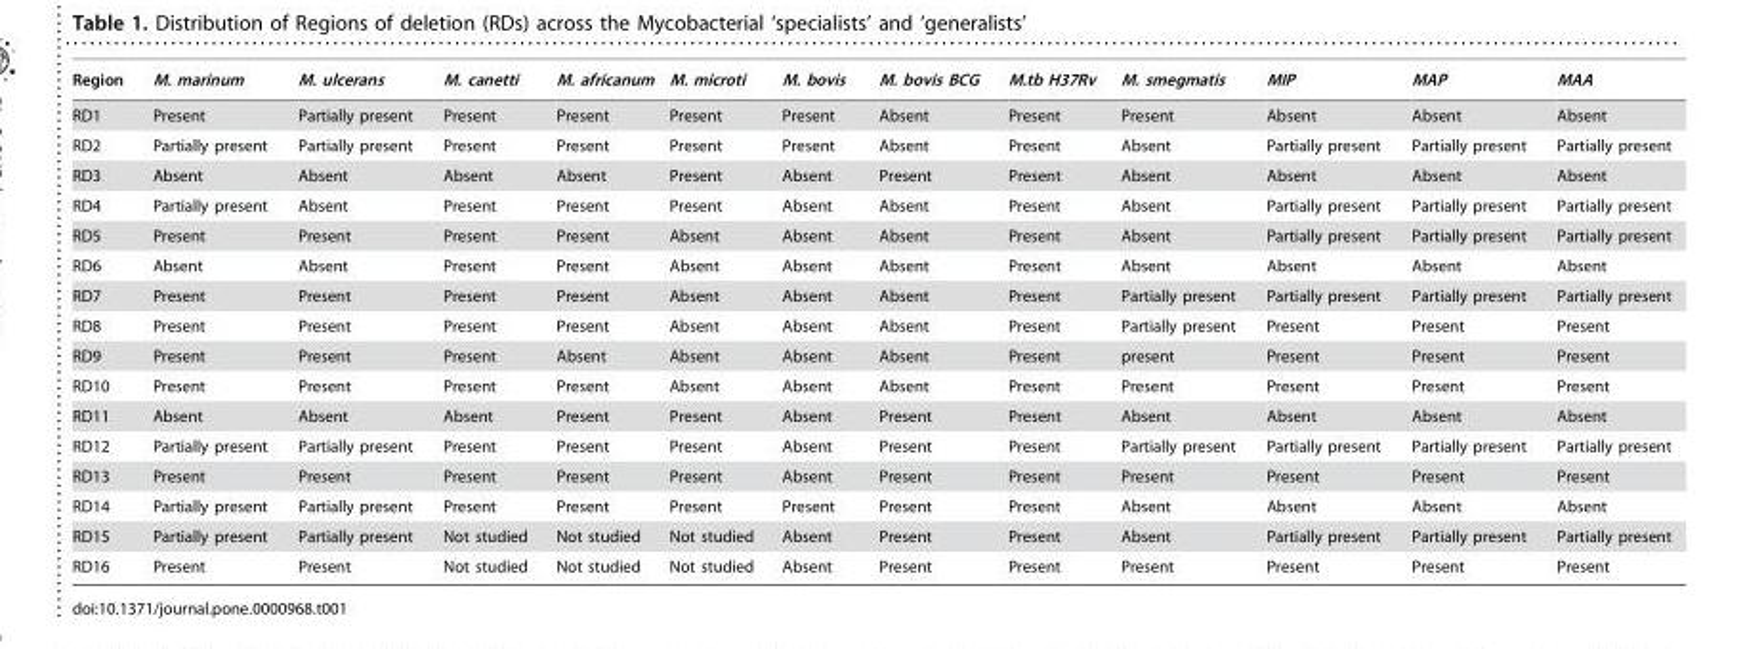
<table><thead><tr><td>Region</td><td>M. marinum</td><td>M. ulcerans</td><td>M. canetti</td><td>M. africanum</td><td>M. microti</td><td>M. bovis</td><td>M. bovis BCG</td><td>M.tb H37Rv</td><td>M. smegmatis</td><td>MIP</td><td>MAP</td><td>MAA</td></tr></thead><tbody><tr><td>RD1</td><td>Present</td><td>Partially present</td><td>Present</td><td>Present</td><td>Present</td><td>Present</td><td>Absent</td><td>Present</td><td>Present</td><td>Absent</td><td>Absent</td><td>Absent</td></tr><tr><td>RD2</td><td>Partially present</td><td>Partially present</td><td>Present</td><td>Present</td><td>Present</td><td>Present</td><td>Absent</td><td>Present</td><td>Absent</td><td>Partially present</td><td>Partially present</td><td>Partially present</td></tr><tr><td>RD3</td><td>Absent</td><td>Absent</td><td>Absent</td><td>Absent</td><td>Present</td><td>Absent</td><td>Present</td><td>Present</td><td>Absent</td><td>Absent</td><td>Absent</td><td>Absent</td></tr><tr><td>RD4</td><td>Partially present</td><td>Absent</td><td>Present</td><td>Present</td><td>Present</td><td>Absent</td><td>Absent</td><td>Present</td><td>Absent</td><td>Partially present</td><td>Partially present</td><td>Partially present</td></tr><tr><td>RD5</td><td>Present</td><td>Present</td><td>Present</td><td>Present</td><td>Absent</td><td>Absent</td><td>Absent</td><td>Present</td><td>Absent</td><td>Partially present</td><td>Partially present</td><td>Partially present</td></tr><tr><td>RD6</td><td>Absent</td><td>Absent</td><td>Present</td><td>Present</td><td>Absent</td><td>Absent</td><td>Absent</td><td>Present</td><td>Absent</td><td>Absent</td><td>Absent</td><td>Absent</td></tr><tr><td>RD7</td><td>Present</td><td>Present</td><td>Present</td><td>Present</td><td>Absent</td><td>Absent</td><td>Absent</td><td>Present</td><td>Partially present</td><td>Partially present</td><td>Partially present</td><td>Partially present</td></tr><tr><td>RD8</td><td>Present</td><td>Present</td><td>Present</td><td>Present</td><td>Absent</td><td>Absent</td><td>Absent</td><td>Present</td><td>Partially present</td><td>Present</td><td>Present</td><td>Present</td></tr><tr><td>RD9</td><td>Present</td><td>Present</td><td>Present</td><td>Absent</td><td>Absent</td><td>Absent</td><td>Absent</td><td>Present</td><td>present</td><td>Present</td><td>Present</td><td>Present</td></tr><tr><td>RD10</td><td>Present</td><td>Present</td><td>Present</td><td>Present</td><td>Absent</td><td>Absent</td><td>Absent</td><td>Present</td><td>Present</td><td>Present</td><td>Present</td><td>Present</td></tr><tr><td>RD11</td><td>Absent</td><td>Absent</td><td>Absent</td><td>Present</td><td>Present</td><td>Absent</td><td>Present</td><td>Present</td><td>Absent</td><td>Absent</td><td>Absent</td><td>Absent</td></tr><tr><td>RD12</td><td>Partially present</td><td>Partially present</td><td>Present</td><td>Present</td><td>Present</td><td>Absent</td><td>Present</td><td>Present</td><td>Partially present</td><td>Partially present</td><td>Partially present</td><td>Partially present</td></tr><tr><td>RD13</td><td>Present</td><td>Present</td><td>Present</td><td>Present</td><td>Present</td><td>Absent</td><td>Present</td><td>Present</td><td>Present</td><td>Present</td><td>Present</td><td>Present</td></tr><tr><td>RD14</td><td>Partially present</td><td>Partially present</td><td>Present</td><td>Present</td><td>Present</td><td>Present</td><td>Present</td><td>Present</td><td>Absent</td><td>Absent</td><td>Absent</td><td>Absent</td></tr><tr><td>RD15</td><td>Partially present</td><td>Partially present</td><td>Not studied</td><td>Not studied</td><td>Not studied</td><td>Absent</td><td>Present</td><td>Present</td><td>Absent</td><td>Partially present</td><td>Partially present</td><td>Partially present</td></tr><tr><td>RD16</td><td>Present</td><td>Present</td><td>Not studied</td><td>Not studied</td><td>Not studied</td><td>Absent</td><td>Present</td><td>Present</td><td>Present</td><td>Present</td><td>Present</td><td>Present</td></tr></tbody></table>